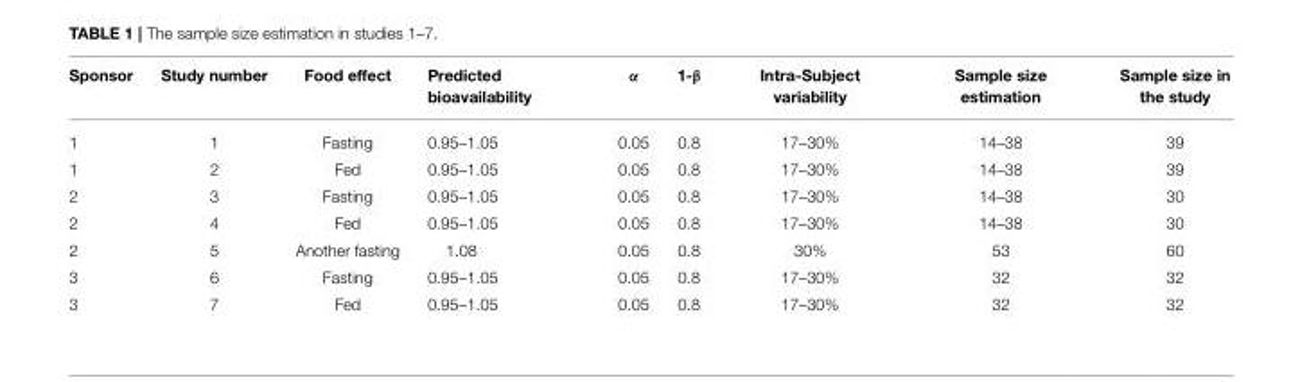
<table><thead><tr><td>Sponsor</td><td>Study number</td><td>Food effect</td><td>Predicted bioavailability</td><td>α</td><td>1-β</td><td>Intra-Subject variability</td><td>Sample size estimation</td><td>Sample size in the study</td></tr></thead><tbody><tr><td>1</td><td>1</td><td>Fasting</td><td>0.95–1.05</td><td>0.05</td><td>0.8</td><td>17–30%</td><td>14–38</td><td>39</td></tr><tr><td>1</td><td>2</td><td>Fed</td><td>0.95–1.05</td><td>0.05</td><td>0.8</td><td>17–30%</td><td>14–38</td><td>39</td></tr><tr><td>2</td><td>3</td><td>Fasting</td><td>0.95–1.05</td><td>0.05</td><td>0.8</td><td>17–30%</td><td>14–38</td><td>30</td></tr><tr><td>2</td><td>4</td><td>Fed</td><td>0.95–1.05</td><td>0.05</td><td>0.8</td><td>17–30%</td><td>14–38</td><td>30</td></tr><tr><td>2</td><td>5</td><td>Another fasting</td><td>1.08</td><td>0.05</td><td>0.8</td><td>30%</td><td>53</td><td>60</td></tr><tr><td>3</td><td>6</td><td>Fasting</td><td>0.95–1.05</td><td>0.05</td><td>0.8</td><td>17–30%</td><td>32</td><td>32</td></tr><tr><td>3</td><td>7</td><td>Fed</td><td>0.95–1.05</td><td>0.05</td><td>0.8</td><td>17–30%</td><td>32</td><td>32</td></tr></tbody></table>